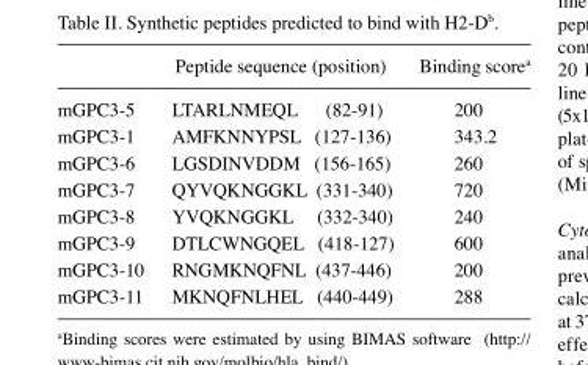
<table><thead><tr><td></td><td>Peptide sequence (position)</td><td>Binding score<sup>a</sup></td></tr></thead><tbody><tr><td>mGPC3-5</td><td>LTARLNMEQL (82-91)</td><td>200</td></tr><tr><td>mGPC3-1</td><td>AMFKNNYPSL (127-136)</td><td>343.2</td></tr><tr><td>mGPC3-6</td><td>LGSDINVDDM (156-165)</td><td>260</td></tr><tr><td>mGPC3-7</td><td>QYVQKNGGKL (331-340)</td><td>720</td></tr><tr><td>mGPC3-8</td><td>YVQKNGGKL (332-340)</td><td>240</td></tr><tr><td>mGPC3-9</td><td>DTLCWNGQEL (418-127)</td><td>600</td></tr><tr><td>mGPC3-10</td><td>RNGMKNQFNL (437-446)</td><td>200</td></tr><tr><td>mGPC3-11</td><td>MKNQFNLHEL (440-449)</td><td>288</td></tr></tbody></table>